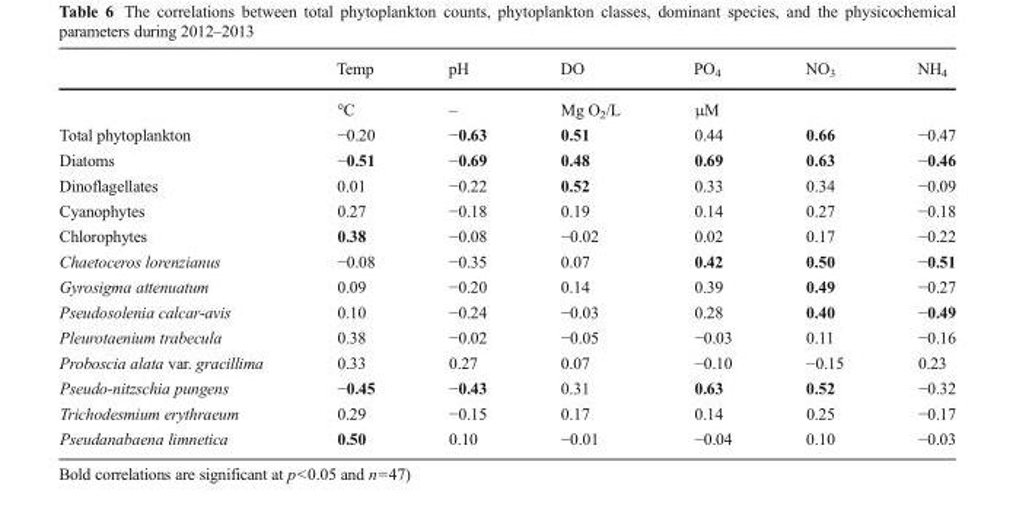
<table><thead><tr><td></td><td>Temp</td><td>pH</td><td>DO</td><td>PO<sub>4</sub></td><td>NO<sub>3</sub></td><td>NH<sub>4</sub></td></tr></thead><tbody><tr><td></td><td>°C</td><td>–</td><td>Mg O<sub>2</sub>/L</td><td colspan="3">μM</td></tr><tr><td>Total phytoplankton</td><td>−0.20</td><td>−0.63</td><td>0.51</td><td>0.44</td><td>0.66</td><td>−0.47</td></tr><tr><td>Diatoms</td><td>−0.51</td><td>−0.69</td><td>0.48</td><td>0.69</td><td>0.63</td><td>−0.46</td></tr><tr><td>Dinoflagellates</td><td>0.01</td><td>−0.22</td><td>0.52</td><td>0.33</td><td>0.34</td><td>−0.09</td></tr><tr><td>Cyanophytes</td><td>0.27</td><td>−0.18</td><td>0.19</td><td>0.14</td><td>0.27</td><td>−0.18</td></tr><tr><td>Chlorophytes</td><td>0.38</td><td>−0.08</td><td>−0.02</td><td>0.02</td><td>0.17</td><td>−0.22</td></tr><tr><td>Chaetoceros lorenzianus</td><td>−0.08</td><td>−0.35</td><td>0.07</td><td>0.42</td><td>0.50</td><td>−0.51</td></tr><tr><td>Gyrosigma attenuatum</td><td>0.09</td><td>−0.20</td><td>0.14</td><td>0.39</td><td>0.49</td><td>−0.27</td></tr><tr><td>Pseudosolenia calcar-avis</td><td>0.10</td><td>−0.24</td><td>−0.03</td><td>0.28</td><td>0.40</td><td>−0.49</td></tr><tr><td>Pleurotaenium trabecula</td><td>0.38</td><td>−0.02</td><td>−0.05</td><td>−0.03</td><td>0.11</td><td>−0.16</td></tr><tr><td>Proboscia alata var. gracillima</td><td>0.33</td><td>0.27</td><td>0.07</td><td>−0.10</td><td>−0.15</td><td>0.23</td></tr><tr><td>Pseudo-nitzschia pungens</td><td>−0.45</td><td>−0.43</td><td>0.31</td><td>0.63</td><td>0.52</td><td>−0.32</td></tr><tr><td>Trichodesmium erythraeum</td><td>0.29</td><td>−0.15</td><td>0.17</td><td>0.14</td><td>0.25</td><td>−0.17</td></tr><tr><td>Pseudanabaena limnetica</td><td>0.50</td><td>0.10</td><td>−0.01</td><td>−0.04</td><td>0.10</td><td>−0.03</td></tr></tbody></table>